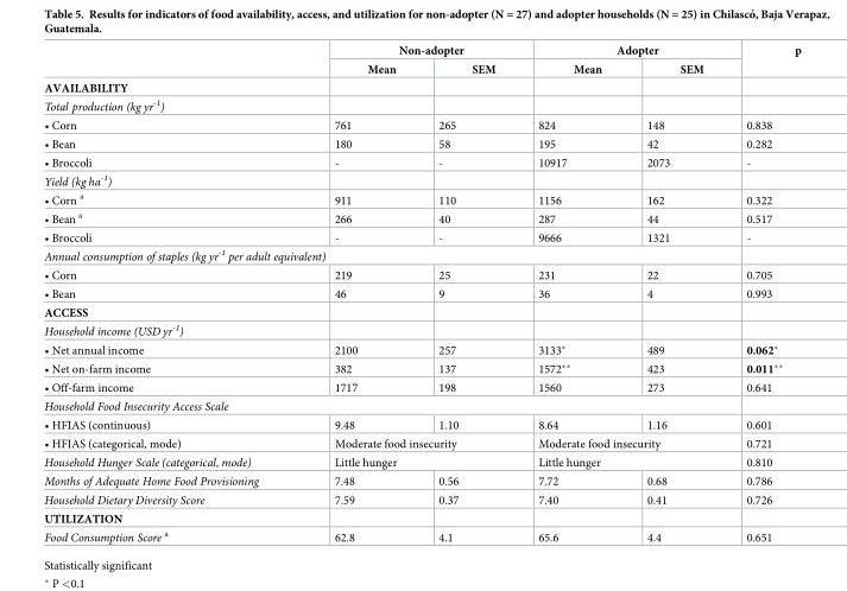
<table><thead><tr><td rowspan="2"></td><td colspan="2">Non-adopter</td><td colspan="2">Adopter</td><td rowspan="2">p</td></tr><tr><td>Mean</td><td>SEM</td><td>Mean</td><td>SEM</td></tr></thead><tbody><tr><td colspan="6">AVAILABILITY</td></tr><tr><td colspan="6">Total production (kg yr<sup>-1</sup>)</td></tr><tr><td>• Corn</td><td>761</td><td>265</td><td>824</td><td>148</td><td>0.838</td></tr><tr><td>• Bean</td><td>180</td><td>58</td><td>195</td><td>42</td><td>0.282</td></tr><tr><td>• Broccoli</td><td>-</td><td>-</td><td>10917</td><td>2073</td><td>-</td></tr><tr><td colspan="6">Yield (kg ha<sup>-1</sup>)</td></tr><tr><td>• Corn <sup>a</sup></td><td>911</td><td>110</td><td>1156</td><td>162</td><td>0.322</td></tr><tr><td>• Bean <sup>a</sup></td><td>266</td><td>40</td><td>287</td><td>44</td><td>0.517</td></tr><tr><td>• Broccoli</td><td>-</td><td>-</td><td>9666</td><td>1321</td><td>-</td></tr><tr><td colspan="6">Annual consumption of staples (kg yr<sup>-1</sup> per adult equivalent)</td></tr><tr><td>• Corn</td><td>219</td><td>25</td><td>231</td><td>22</td><td>0.705</td></tr><tr><td>• Bean</td><td>46</td><td>9</td><td>36</td><td>4</td><td>0.993</td></tr><tr><td colspan="6">ACCESS</td></tr><tr><td colspan="6">Household income (USD yr<sup>-1</sup>)</td></tr><tr><td>• Net annual income</td><td>2100</td><td>257</td><td>3133*</td><td>489</td><td>0.062*</td></tr><tr><td>• Net on-farm income</td><td>382</td><td>137</td><td>1572**</td><td>423</td><td>0.011**</td></tr><tr><td>• Off-farm income</td><td>1717</td><td>198</td><td>1560</td><td>273</td><td>0.641</td></tr><tr><td colspan="6">Household Food Insecurity Access Scale</td></tr><tr><td>• HFIAS (continuous)</td><td>9.48</td><td>1.10</td><td>8.64</td><td>1.16</td><td>0.601</td></tr><tr><td>• HFIAS (categorical, mode)</td><td colspan="2">Moderate food insecurity</td><td colspan="2">Moderate food insecurity</td><td>0.721</td></tr><tr><td>Household Hunger Scale (categorical, mode)</td><td colspan="2">Little hunger</td><td colspan="2">Little hunger</td><td>0.810</td></tr><tr><td>Months of Adequate Home Food Provisioning</td><td>7.48</td><td>0.56</td><td>7.72</td><td>0.68</td><td>0.786</td></tr><tr><td>Household Dietary Diversity Score</td><td>7.59</td><td>0.37</td><td>7.40</td><td>0.41</td><td>0.726</td></tr><tr><td colspan="6">UTILIZATION</td></tr><tr><td>Food Consumption Score <sup>a</sup></td><td>62.8</td><td>4.1</td><td>65.6</td><td>4.4</td><td>0.651</td></tr></tbody></table>